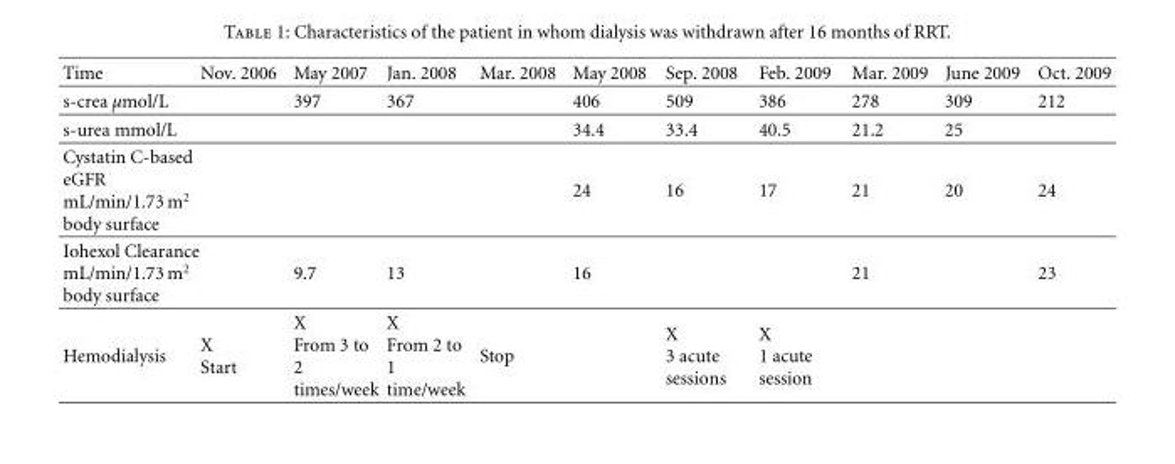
<table><thead><tr><td>Time</td><td>Nov. 2006</td><td>May 2007</td><td>Jan. 2008</td><td>Mar. 2008</td><td>May 2008</td><td>Sep. 2008</td><td>Feb. 2009</td><td>Mar. 2009</td><td>June 2009</td><td>Oct. 2009</td></tr></thead><tbody><tr><td>s-crea µmol/L</td><td></td><td>397</td><td>367</td><td></td><td>406</td><td>509</td><td>386</td><td>278</td><td>309</td><td>212</td></tr><tr><td>s-urea mmol/L</td><td></td><td></td><td></td><td></td><td>34.4</td><td>33.4</td><td>40.5</td><td>21.2</td><td>25</td><td></td></tr><tr><td>Cystatin C-based eGFR mL/min/1.73 m<sup>2</sup> body surface</td><td></td><td></td><td></td><td></td><td>24</td><td>16</td><td>17</td><td>21</td><td>20</td><td>24</td></tr><tr><td>Iohexol Clearance mL/min/1.73 m<sup>2</sup> body surface</td><td></td><td>9.7</td><td>13</td><td></td><td>16</td><td></td><td></td><td>21</td><td></td><td>23</td></tr><tr><td>Hemodialysis</td><td>X Start</td><td>X From 3 to 2 times/week</td><td>X From 2 to 1 time/week</td><td>Stop</td><td></td><td>X 3 acute sessions</td><td>X 1 acute session</td><td></td><td></td><td></td></tr></tbody></table>